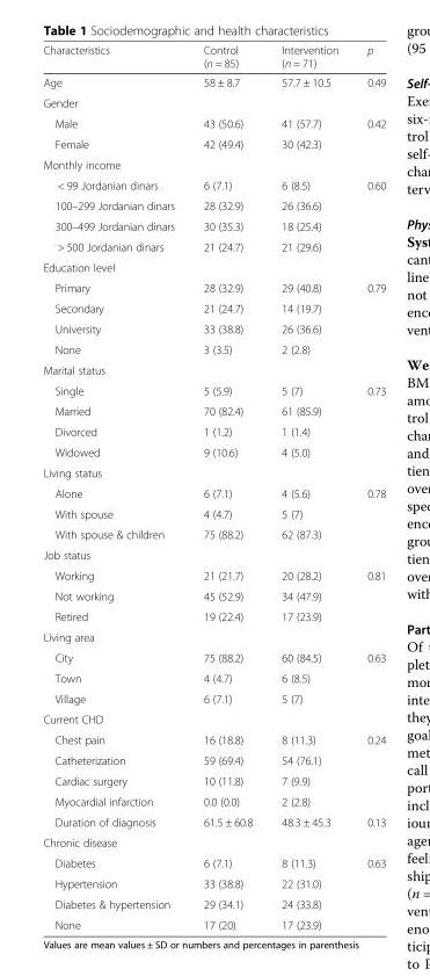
<table><thead><tr><td>Characteristics</td><td>Control (n = 85)</td><td>Intervention (n = 71)</td><td>p</td></tr></thead><tbody><tr><td>Age</td><td>58 ± 8.7</td><td>57.7 ± 10.5</td><td>0.49</td></tr><tr><td colspan="4">Gender</td></tr><tr><td>Male</td><td>43 (50.6)</td><td>41 (57.7)</td><td rowspan="2">0.42</td></tr><tr><td>Female</td><td>42 (49.4)</td><td>30 (42.3)</td></tr><tr><td colspan="4">Monthly income</td></tr><tr><td>&lt; 99 Jordanian dinars</td><td>6 (7.1)</td><td>6 (8.5)</td><td rowspan="4">0.60</td></tr><tr><td>100–299 Jordanian dinars</td><td>28 (32.9)</td><td>26 (36.6)</td></tr><tr><td>300–499 Jordanian dinars</td><td>30 (35.3)</td><td>18 (25.4)</td></tr><tr><td>&gt; 500 Jordanian dinars</td><td>21 (24.7)</td><td>21 (29.6)</td></tr><tr><td colspan="4">Education level</td></tr><tr><td>Primary</td><td>28 (32.9)</td><td>29 (40.8)</td><td rowspan="4">0.79</td></tr><tr><td>Secondary</td><td>21 (24.7)</td><td>14 (19.7)</td></tr><tr><td>University</td><td>33 (38.8)</td><td>26 (36.6)</td></tr><tr><td>None</td><td>3 (3.5)</td><td>2 (2.8)</td></tr><tr><td colspan="4">Marital status</td></tr><tr><td>Single</td><td>5 (5.9)</td><td>5 (7)</td><td rowspan="4">0.73</td></tr><tr><td>Married</td><td>70 (82.4)</td><td>61 (85.9)</td></tr><tr><td>Divorced</td><td>1 (1.2)</td><td>1 (1.4)</td></tr><tr><td>Widowed</td><td>9 (10.6)</td><td>4 (5.0)</td></tr><tr><td colspan="4">Living status</td></tr><tr><td>Alone</td><td>6 (7.1)</td><td>4 (5.6)</td><td rowspan="3">0.78</td></tr><tr><td>With spouse</td><td>4 (4.7)</td><td>5 (7)</td></tr><tr><td>With spouse &amp; children</td><td>75 (88.2)</td><td>62 (87.3)</td></tr><tr><td colspan="4">Job status</td></tr><tr><td>Working</td><td>21 (21.7)</td><td>20 (28.2)</td><td rowspan="3">0.81</td></tr><tr><td>Not working</td><td>45 (52.9)</td><td>34 (47.9)</td></tr><tr><td>Retired</td><td>19 (22.4)</td><td>17 (23.9)</td></tr><tr><td colspan="4">Living area</td></tr><tr><td>City</td><td>75 (88.2)</td><td>60 (84.5)</td><td rowspan="3">0.63</td></tr><tr><td>Town</td><td>4 (4.7)</td><td>6 (8.5)</td></tr><tr><td>Village</td><td>6 (7.1)</td><td>5 (7)</td></tr><tr><td colspan="4">Current CHD</td></tr><tr><td>Chest pain</td><td>16 (18.8)</td><td>8 (11.3)</td><td rowspan="4">0.24</td></tr><tr><td>Catheterization</td><td>59 (69.4)</td><td>54 (76.1)</td></tr><tr><td>Cardiac surgery</td><td>10 (11.8)</td><td>7 (9.9)</td></tr><tr><td>Myocardial infarction</td><td>0.0 (0.0)</td><td>2 (2.8)</td></tr><tr><td>Duration of diagnosis</td><td>61.5 ± 60.8</td><td>48.3 ± 45.3</td><td>0.13</td></tr><tr><td colspan="4">Chronic disease</td></tr><tr><td>Diabetes</td><td>6 (7.1)</td><td>8 (11.3)</td><td rowspan="4">0.63</td></tr><tr><td>Hypertension</td><td>33 (38.8)</td><td>22 (31.0)</td></tr><tr><td>Diabetes &amp; hypertension</td><td>29 (34.1)</td><td>24 (33.8)</td></tr><tr><td>None</td><td>17 (20)</td><td>17 (23.9)</td></tr></tbody></table>